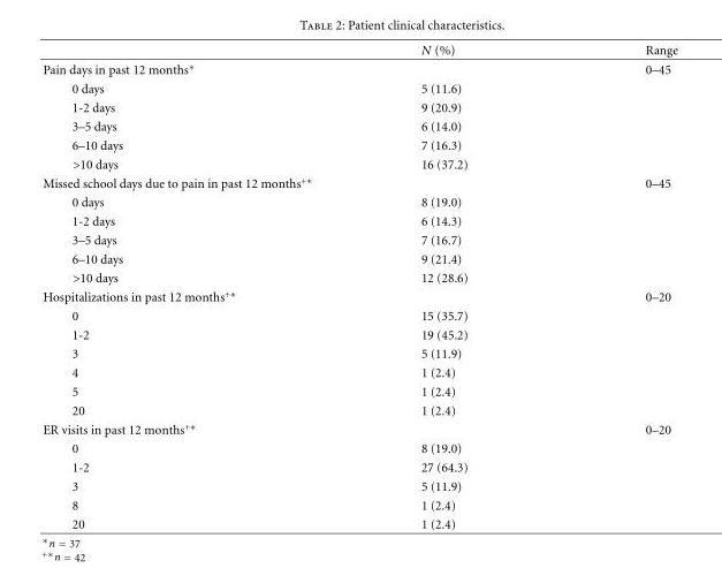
<table><thead><tr><td></td><td>N (%)</td><td>Range</td></tr></thead><tbody><tr><td>Pain days in past 12 months∗</td><td></td><td>0–45</td></tr><tr><td>0 days</td><td>5 (11.6)</td><td></td></tr><tr><td>1-2 days</td><td>9 (20.9)</td><td></td></tr><tr><td>3–5 days</td><td>6 (14.0)</td><td></td></tr><tr><td>6–10 days</td><td>7 (16.3)</td><td></td></tr><tr><td>&gt;10 days</td><td>16 (37.2)</td><td></td></tr><tr><td>Missed school days due to pain in past 12 months<sup>+∗</sup></td><td></td><td>0–45</td></tr><tr><td>0 days</td><td>8 (19.0)</td><td></td></tr><tr><td>1-2 days</td><td>6 (14.3)</td><td></td></tr><tr><td>3–5 days</td><td>7 (16.7)</td><td></td></tr><tr><td>6–10 days</td><td>9 (21.4)</td><td></td></tr><tr><td>&gt;10 days</td><td>12 (28.6)</td><td></td></tr><tr><td>Hospitalizations in past 12 months<sup>+∗</sup></td><td></td><td>0–20</td></tr><tr><td>0</td><td>15 (35.7)</td><td></td></tr><tr><td>1-2</td><td>19 (45.2)</td><td></td></tr><tr><td>3</td><td>5 (11.9)</td><td></td></tr><tr><td>4</td><td>1 (2.4)</td><td></td></tr><tr><td>5</td><td>1 (2.4)</td><td></td></tr><tr><td>20</td><td>1 (2.4)</td><td></td></tr><tr><td>ER visits in past 12 months<sup>+∗</sup></td><td></td><td>0–20</td></tr><tr><td>0</td><td>8 (19.0)</td><td></td></tr><tr><td>1-2</td><td>27 (64.3)</td><td></td></tr><tr><td>3</td><td>5 (11.9)</td><td></td></tr><tr><td>8</td><td>1 (2.4)</td><td></td></tr><tr><td>20</td><td>1 (2.4)</td><td></td></tr></tbody></table>